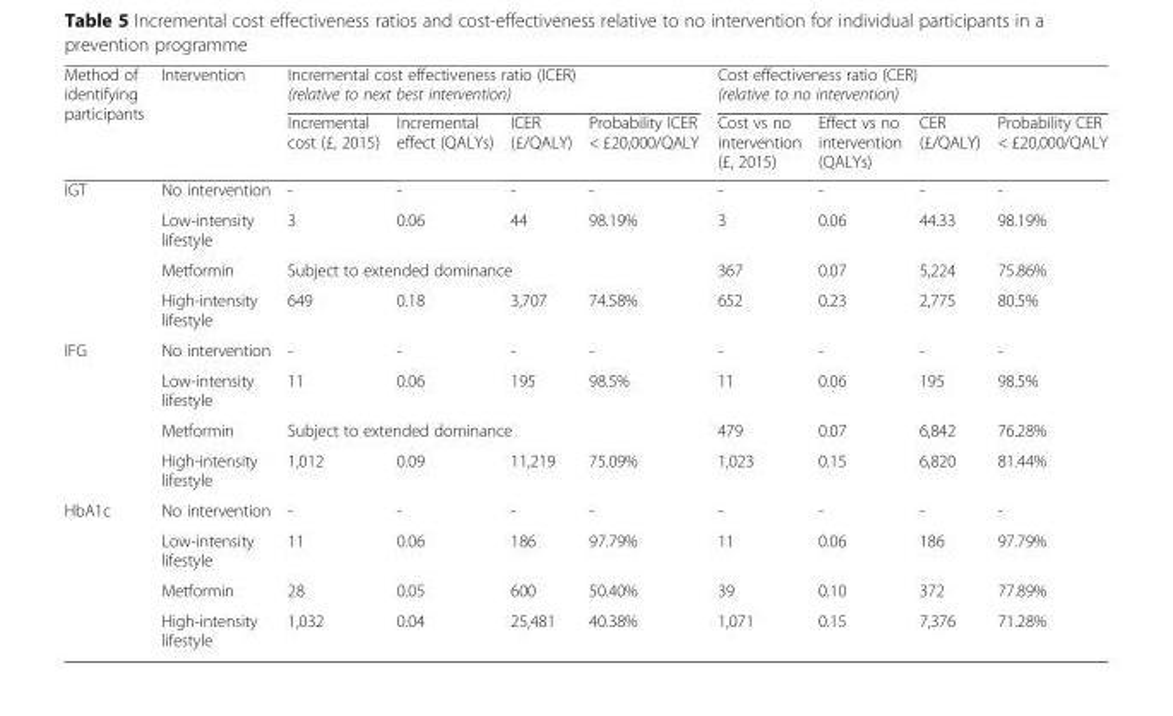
<table><thead><tr><td rowspan="2">Method of identifying participants</td><td rowspan="2">Intervention</td><td colspan="4">Incremental cost effectiveness ratio (ICER) (relative to next best intervention)</td><td colspan="4">Cost effectiveness ratio (CER) (relative to no intervention)</td></tr><tr><td>Incremental cost (£, 2015)</td><td>Incremental effect (QALYs)</td><td>ICER (£/QALY)</td><td>Probability ICER &lt; £20,000/QALY</td><td>Cost vs no intervention (£, 2015)</td><td>Effect vs no intervention (QALYs)</td><td>CER (£/QALY)</td><td>Probability CER &lt; £20,000/QALY</td></tr></thead><tbody><tr><td rowspan="4">IGT</td><td>No intervention</td><td>-</td><td>-</td><td>-</td><td>-</td><td>-</td><td>-</td><td>-</td><td>-</td></tr><tr><td>Low-intensity lifestyle</td><td>3</td><td>0.06</td><td>44</td><td>98.19%</td><td>3</td><td>0.06</td><td>44.33</td><td>98.19%</td></tr><tr><td>Metformin</td><td colspan="4">Subject to extended dominance</td><td>367</td><td>0.07</td><td>5,224</td><td>75.86%</td></tr><tr><td>High-intensity lifestyle</td><td>649</td><td>0.18</td><td>3,707</td><td>74.58%</td><td>652</td><td>0.23</td><td>2,775</td><td>80.5%</td></tr><tr><td rowspan="4">IFG</td><td>No intervention</td><td>-</td><td>-</td><td>-</td><td>-</td><td>-</td><td>-</td><td>-</td><td>-</td></tr><tr><td>Low-intensity lifestyle</td><td>11</td><td>0.06</td><td>195</td><td>98.5%</td><td>11</td><td>0.06</td><td>195</td><td>98.5%</td></tr><tr><td>Metformin</td><td colspan="4">Subject to extended dominance</td><td>479</td><td>0.07</td><td>6,842</td><td>76.28%</td></tr><tr><td>High-intensity lifestyle</td><td>1,012</td><td>0.09</td><td>11,219</td><td>75.09%</td><td>1,023</td><td>0.15</td><td>6,820</td><td>81.44%</td></tr><tr><td rowspan="4">HbA1c</td><td>No intervention</td><td>-</td><td>-</td><td>-</td><td>-</td><td>-</td><td>-</td><td>-</td><td>-</td></tr><tr><td>Low-intensity lifestyle</td><td>11</td><td>0.06</td><td>186</td><td>97.79%</td><td>11</td><td>0.06</td><td>186</td><td>97.79%</td></tr><tr><td>Metformin</td><td>28</td><td>0.05</td><td>600</td><td>50.40%</td><td>39</td><td>0.10</td><td>372</td><td>77.89%</td></tr><tr><td>High-intensity lifestyle</td><td>1,032</td><td>0.04</td><td>25,481</td><td>40.38%</td><td>1,071</td><td>0.15</td><td>7,376</td><td>71.28%</td></tr></tbody></table>